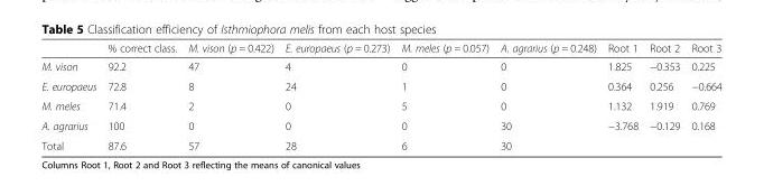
<table><thead><tr><td></td><td>% correct class.</td><td>M. vison (p = 0.422)</td><td>E. europaeus (p = 0.273)</td><td>M. meles (p = 0.057)</td><td>A. agrarius (p = 0.248)</td><td>Root 1</td><td>Root 2</td><td>Root 3</td></tr></thead><tbody><tr><td>M. vison</td><td>92.2</td><td>47</td><td>4</td><td>0</td><td>0</td><td>1.825</td><td>−0.353</td><td>0.225</td></tr><tr><td>E. europaeus</td><td>72.8</td><td>8</td><td>24</td><td>1</td><td>0</td><td>0.364</td><td>0.256</td><td>−0.664</td></tr><tr><td>M. meles</td><td>71.4</td><td>2</td><td>0</td><td>5</td><td>0</td><td>1.132</td><td>1.919</td><td>0.769</td></tr><tr><td>A. agrarius</td><td>100</td><td>0</td><td>0</td><td>0</td><td>30</td><td>−3.768</td><td>−0.129</td><td>0.168</td></tr><tr><td>Total</td><td>87.6</td><td>57</td><td>28</td><td>6</td><td>30</td><td colspan="3"></td></tr></tbody></table>